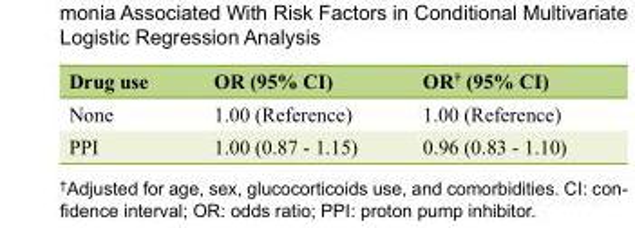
<table><thead><tr><td>Drug use</td><td>OR (95% CI)</td><td>OR<sup>†</sup> (95% CI)</td></tr></thead><tbody><tr><td>None</td><td>1.00 (Reference)</td><td>1.00 (Reference)</td></tr><tr><td>PPI</td><td>1.00 (0.87 - 1.15)</td><td>0.96 (0.83 - 1.10)</td></tr></tbody></table>